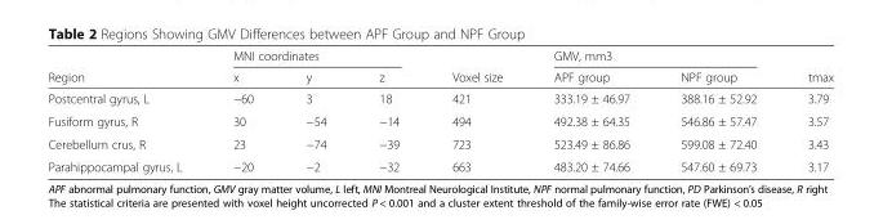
<table><thead><tr><td rowspan="2">Region</td><td colspan="3">MNI coordinates</td><td rowspan="2">Voxel size</td><td colspan="2">GMV, mm3</td><td rowspan="2">tmax</td></tr><tr><td>x</td><td>y</td><td>z</td><td>APF group</td><td>NPF group</td></tr></thead><tbody><tr><td>Postcentral gyrus, L</td><td>−60</td><td>3</td><td>18</td><td>421</td><td>333.19 ± 46.97</td><td>388.16 ± 52.92</td><td>3.79</td></tr><tr><td>Fusiform gyrus, R</td><td>30</td><td>−54</td><td>−14</td><td>494</td><td>492.38 ± 64.35</td><td>546.86 ± 57.47</td><td>3.57</td></tr><tr><td>Cerebellum crus, R</td><td>23</td><td>−74</td><td>−39</td><td>723</td><td>523.49 ± 86.86</td><td>599.08 ± 72.40</td><td>3.43</td></tr><tr><td>Parahippocampal gyrus, L</td><td>−20</td><td>−2</td><td>−32</td><td>663</td><td>483.20 ± 74.66</td><td>547.60 ± 69.73</td><td>3.17</td></tr></tbody></table>